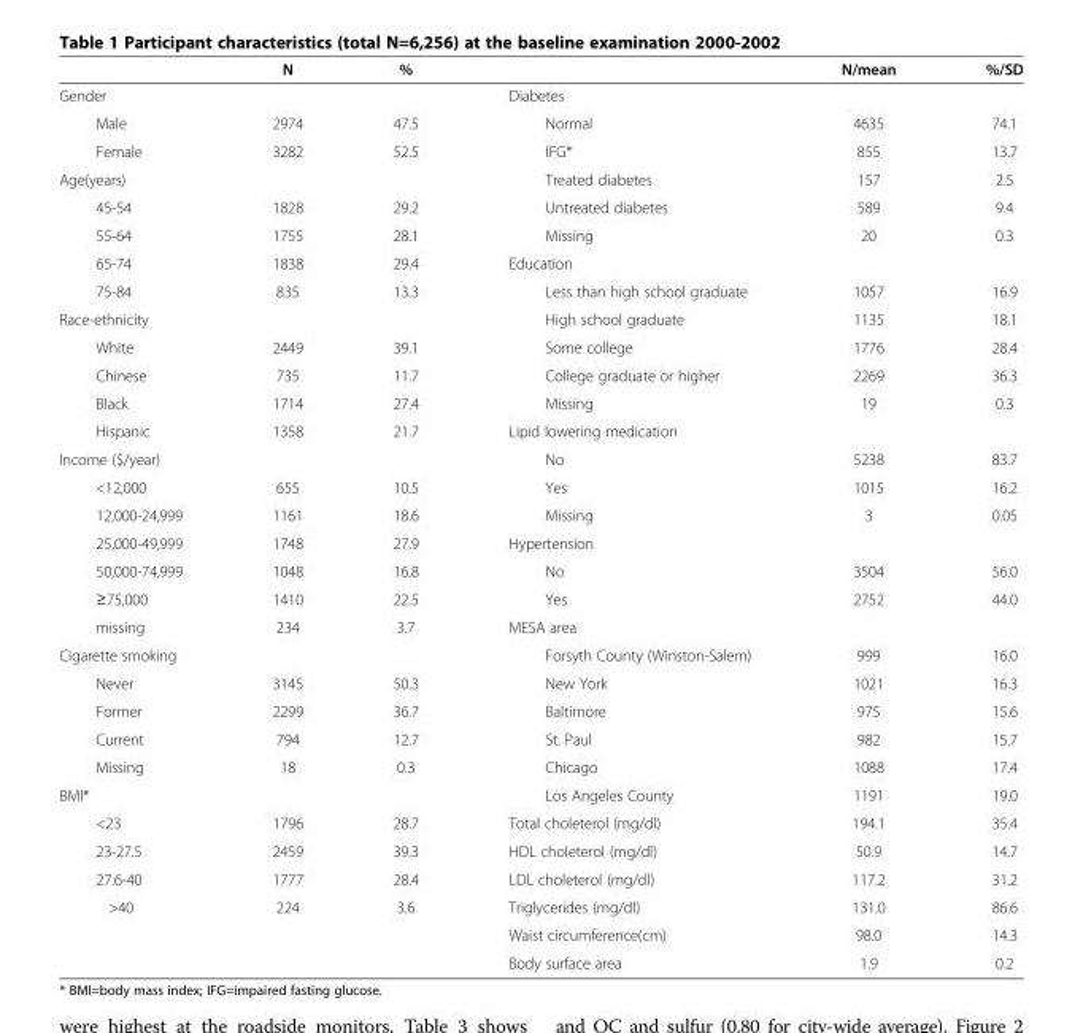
<table><thead><tr><td></td><td>N</td><td>%</td><td></td><td>N/mean</td><td>%/SD</td></tr></thead><tbody><tr><td>Gender</td><td></td><td></td><td>Diabetes</td><td></td><td></td></tr><tr><td>Male</td><td>2974</td><td>47.5</td><td>Normal</td><td>4635</td><td>74.1</td></tr><tr><td>Female</td><td>3282</td><td>52.5</td><td>IFG*</td><td>855</td><td>13.7</td></tr><tr><td>Age(years)</td><td></td><td></td><td>Treated diabetes</td><td>157</td><td>2.5</td></tr><tr><td>45-54</td><td>1828</td><td>29.2</td><td>Untreated diabetes</td><td>589</td><td>9.4</td></tr><tr><td>55-64</td><td>1755</td><td>28.1</td><td>Missing</td><td>20</td><td>0.3</td></tr><tr><td>65-74</td><td>1838</td><td>29.4</td><td>Education</td><td></td><td></td></tr><tr><td>75-84</td><td>835</td><td>13.3</td><td>Less than high school graduate</td><td>1057</td><td>16.9</td></tr><tr><td>Race-ethnicity</td><td></td><td></td><td>High school graduate</td><td>1135</td><td>18.1</td></tr><tr><td>White</td><td>2449</td><td>39.1</td><td>Some college</td><td>1776</td><td>28.4</td></tr><tr><td>Chinese</td><td>735</td><td>11.7</td><td>College graduate or higher</td><td>2269</td><td>36.3</td></tr><tr><td>Black</td><td>1714</td><td>27.4</td><td>Missing</td><td>19</td><td>0.3</td></tr><tr><td>Hispanic</td><td>1358</td><td>21.7</td><td>Lipid lowering medication</td><td></td><td></td></tr><tr><td>Income ($/year)</td><td></td><td></td><td>No</td><td>5238</td><td>83.7</td></tr><tr><td>&lt;12,000</td><td>655</td><td>10.5</td><td>Yes</td><td>1015</td><td>16.2</td></tr><tr><td>12,000-24,999</td><td>1161</td><td>18.6</td><td>Missing</td><td>3</td><td>0.05</td></tr><tr><td>25,000-49,999</td><td>1748</td><td>27.9</td><td>Hypertension</td><td></td><td></td></tr><tr><td>50,000-74,999</td><td>1048</td><td>16.8</td><td>No</td><td>3504</td><td>56.0</td></tr><tr><td>≥75,000</td><td>1410</td><td>22.5</td><td>Yes</td><td>2752</td><td>44.0</td></tr><tr><td>missing</td><td>234</td><td>3.7</td><td>MESA area</td><td></td><td></td></tr><tr><td>Cigarette smoking</td><td></td><td></td><td>Forsyth County (Winston-Salem)</td><td>999</td><td>16.0</td></tr><tr><td>Never</td><td>3145</td><td>50.3</td><td>New York</td><td>1021</td><td>16.3</td></tr><tr><td>Former</td><td>2299</td><td>36.7</td><td>Baltimore</td><td>975</td><td>15.6</td></tr><tr><td>Current</td><td>794</td><td>12.7</td><td>St. Paul</td><td>982</td><td>15.7</td></tr><tr><td>Missing</td><td>18</td><td>0.3</td><td>Chicago</td><td>1088</td><td>17.4</td></tr><tr><td>BMI*</td><td></td><td></td><td>Los Angeles County</td><td>1191</td><td>19.0</td></tr><tr><td>&lt;23</td><td>1796</td><td>28.7</td><td>Total choleterol (mg/dl)</td><td>194.1</td><td>35.4</td></tr><tr><td>23-27.5</td><td>2459</td><td>39.3</td><td>HDL choleterol (mg/dl)</td><td>50.9</td><td>14.7</td></tr><tr><td>27.6-40</td><td>1777</td><td>28.4</td><td>LDL choleterol (mg/dl)</td><td>117.2</td><td>31.2</td></tr><tr><td rowspan="3">&gt;40</td><td>224</td><td>3.6</td><td>Triglycerides (mg/dl)</td><td>131.0</td><td>86.6</td></tr><tr><td></td><td></td><td>Waist circumference(cm)</td><td>98.0</td><td>14.3</td></tr><tr><td></td><td></td><td>Body surface area</td><td>1.9</td><td>0.2</td></tr></tbody></table>